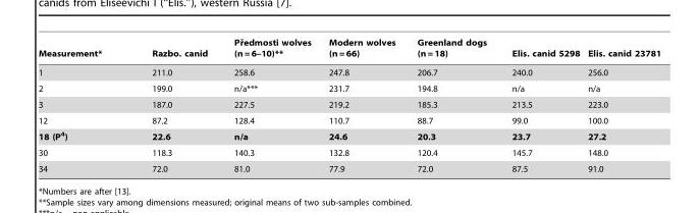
<table><thead><tr><td>Measurement*</td><td>Razbo. canid</td><td>Prˇedmosti wolves (n = 6–10)**</td><td>Modern wolves (n = 66)</td><td>Greenland dogs (n = 18)</td><td>Elis. canid 5298</td><td>Elis. canid 23781</td></tr></thead><tbody><tr><td>1</td><td>211.0</td><td>258.6</td><td>247.8</td><td>206.7</td><td>240.0</td><td>256.0</td></tr><tr><td>2</td><td>199.0</td><td>n/a***</td><td>231.7</td><td>194.8</td><td>n/a</td><td>n/a</td></tr><tr><td>3</td><td>187.0</td><td>227.5</td><td>219.2</td><td>185.3</td><td>213.5</td><td>223.0</td></tr><tr><td>12</td><td>87.2</td><td>128.4</td><td>110.7</td><td>88.7</td><td>99.0</td><td>100.0</td></tr><tr><td>18 (P<sup>4</sup>)</td><td>22.6</td><td>n/a</td><td>24.6</td><td>20.3</td><td>23.7</td><td>27.2</td></tr><tr><td>30</td><td>118.3</td><td>140.3</td><td>132.8</td><td>120.4</td><td>145.7</td><td>148.0</td></tr><tr><td>34</td><td>72.0</td><td>81.0</td><td>77.9</td><td>72.0</td><td>87.5</td><td>91.0</td></tr></tbody></table>